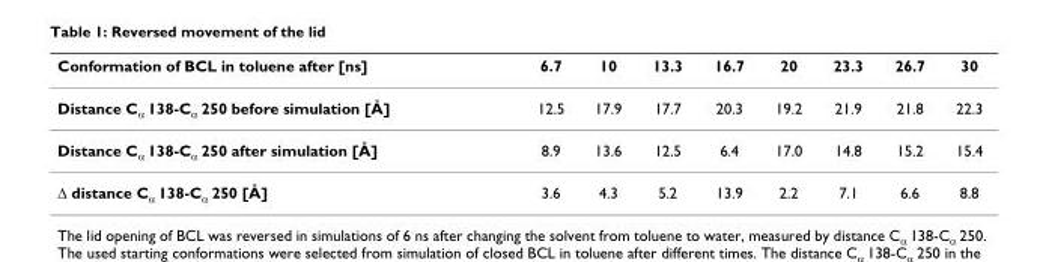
<table><thead><tr><td>Conformation of BCL in toluene after [ns]</td><td>6.7</td><td>10</td><td>13.3</td><td>16.7</td><td>20</td><td>23.3</td><td>26.7</td><td>30</td></tr></thead><tbody><tr><td>Distance C<sub>α</sub> 138-C<sub>α</sub> 250 before simulation [Å]</td><td>12.5</td><td>17.9</td><td>17.7</td><td>20.3</td><td>19.2</td><td>21.9</td><td>21.8</td><td>22.3</td></tr><tr><td>Distance C<sub>α</sub> 138-C<sub>α</sub> 250 after simulation [Å]</td><td>8.9</td><td>13.6</td><td>12.5</td><td>6.4</td><td>17.0</td><td>14.8</td><td>15.2</td><td>15.4</td></tr><tr><td>Δ distance C<sub>α</sub> 138-C<sub>α</sub> 250 [Å]</td><td>3.6</td><td>4.3</td><td>5.2</td><td>13.9</td><td>2.2</td><td>7.1</td><td>6.6</td><td>8.8</td></tr></tbody></table>